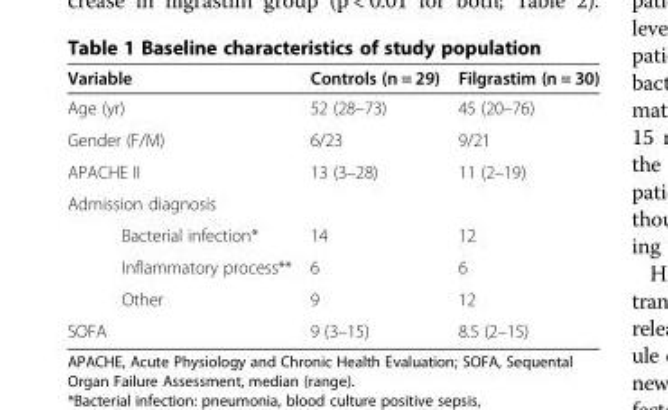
<table><thead><tr><td>Variable</td><td>Controls (n = 29)</td><td>Filgrastim (n = 30)</td></tr></thead><tbody><tr><td>Age (yr)</td><td>52 (28–73)</td><td>45 (20–76)</td></tr><tr><td>Gender (F/M)</td><td>6/23</td><td>9/21</td></tr><tr><td>APACHE II</td><td>13 (3–28)</td><td>11 (2–19)</td></tr><tr><td colspan="3">Admission diagnosis</td></tr><tr><td>Bacterial infection*</td><td>14</td><td>12</td></tr><tr><td>Inflammatory process**</td><td>6</td><td>6</td></tr><tr><td>Other</td><td>9</td><td>12</td></tr><tr><td>SOFA</td><td>9 (3–15)</td><td>8.5 (2–15)</td></tr></tbody></table>